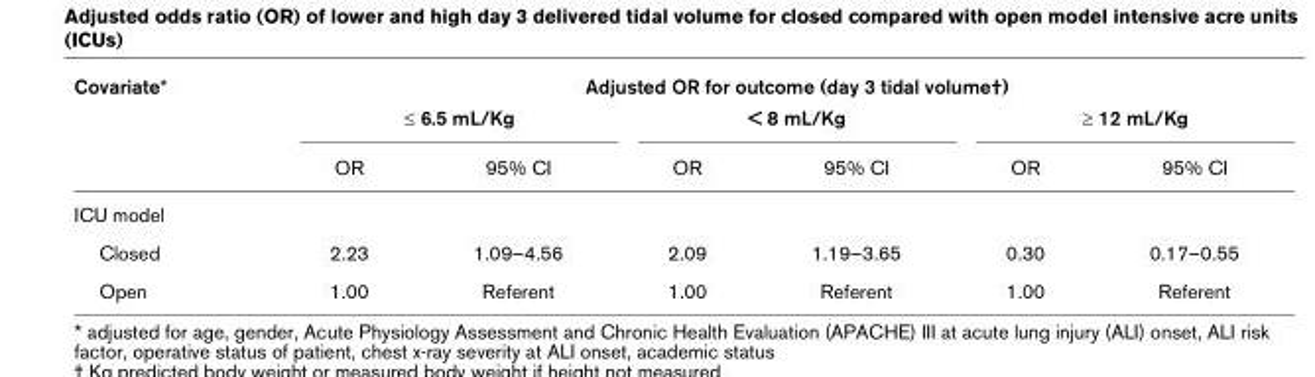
<table><thead><tr><td rowspan="3">Covariate*</td><td colspan="6">Adjusted OR for outcome (day 3 tidal volume†)</td></tr><tr><td colspan="2">≤ 6.5 mL/Kg</td><td colspan="2">&lt; 8 mL/Kg</td><td colspan="2">≥ 12 mL/Kg</td></tr><tr><td>OR</td><td>95% CI</td><td>OR</td><td>95% CI</td><td>OR</td><td>95% CI</td></tr></thead><tbody><tr><td colspan="7">ICU model</td></tr><tr><td>Closed</td><td>2.23</td><td>1.09–4.56</td><td>2.09</td><td>1.19–3.65</td><td>0.30</td><td>0.17–0.55</td></tr><tr><td>Open</td><td>1.00</td><td>Referent</td><td>1.00</td><td>Referent</td><td>1.00</td><td>Referent</td></tr></tbody></table>